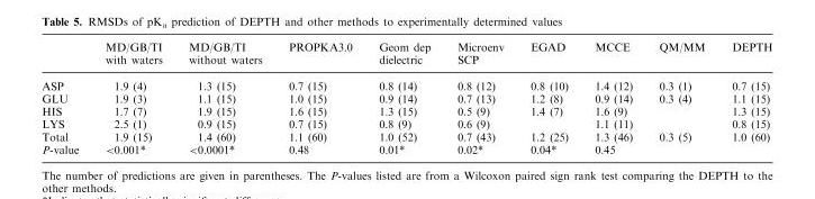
<table><thead><tr><td></td><td>MD/GB/TI with waters</td><td>MD/GB/TI without waters</td><td>PROPKA3.0</td><td>Geom dep dielectric</td><td>Microenv SCP</td><td>EGAD</td><td>MCCE</td><td>QM/MM</td><td>DEPTH</td></tr></thead><tbody><tr><td>ASP</td><td>1.9 (4)</td><td>1.3 (15)</td><td>0.7 (15)</td><td>0.8 (14)</td><td>0.8 (12)</td><td>0.8 (10)</td><td>1.4 (12)</td><td>0.3 (1)</td><td>0.7 (15)</td></tr><tr><td>GLU</td><td>1.9 (3)</td><td>1.1 (15)</td><td>1.0 (15)</td><td>0.9 (14)</td><td>0.7 (13)</td><td>1.2 (8)</td><td>0.9 (14)</td><td>0.3 (4)</td><td>1.1 (15)</td></tr><tr><td>HIS</td><td>1.7 (7)</td><td>1.9 (15)</td><td>1.6 (15)</td><td>1.3 (15)</td><td>0.5 (9)</td><td>1.4 (7)</td><td>1.6 (9)</td><td></td><td>1.3 (15)</td></tr><tr><td>LYS</td><td>2.5 (1)</td><td>0.9 (15)</td><td>0.7 (15)</td><td>0.8 (9)</td><td>0.6 (9)</td><td></td><td>1.1 (11)</td><td></td><td>0.8 (15)</td></tr><tr><td>Total</td><td>1.9 (15)</td><td>1.4 (60)</td><td>1.1 (60)</td><td>1.0 (52)</td><td>0.7 (43)</td><td>1.2 (25)</td><td>1.3 (46)</td><td>0.3 (5)</td><td>1.0 (60)</td></tr><tr><td>P-value</td><td>&lt;0.001*</td><td>&lt;0.0001*</td><td>0.48</td><td>0.01*</td><td>0.02*</td><td>0.04*</td><td>0.45</td><td></td><td></td></tr></tbody></table>